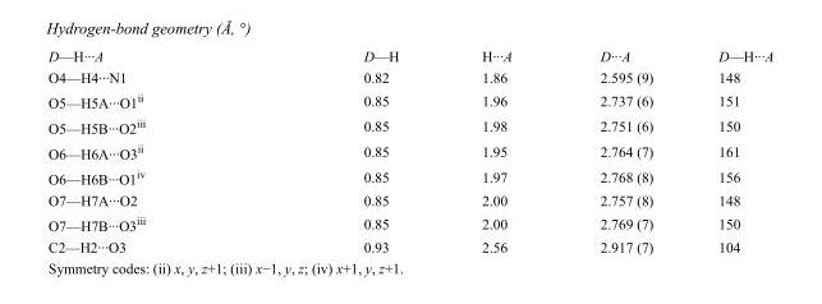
<table><tbody><tr><td>D—H···A</td><td>D—H</td><td>H···A</td><td>D···A</td><td>D—H···A</td></tr><tr><td>O4—H4···N1</td><td>0.82</td><td>1.86</td><td>2.595 (9)</td><td>148</td></tr><tr><td>O5—H5A···O1<sup>ii</sup></td><td>0.85</td><td>1.96</td><td>2.737 (6)</td><td>151</td></tr><tr><td>O5—H5B···O2<sup>iii</sup></td><td>0.85</td><td>1.98</td><td>2.751 (6)</td><td>150</td></tr><tr><td>O6—H6A···O3<sup>ii</sup></td><td>0.85</td><td>1.95</td><td>2.764 (7)</td><td>161</td></tr><tr><td>O6—H6B···O1<sup>iv</sup></td><td>0.85</td><td>1.97</td><td>2.768 (8)</td><td>156</td></tr><tr><td>O7—H7A···O2</td><td>0.85</td><td>2.00</td><td>2.757 (8)</td><td>148</td></tr><tr><td>O7—H7B···O3<sup>iii</sup></td><td>0.85</td><td>2.00</td><td>2.769 (7)</td><td>150</td></tr><tr><td>C2—H2···O3</td><td>0.93</td><td>2.56</td><td>2.917 (7)</td><td>104</td></tr></tbody></table>